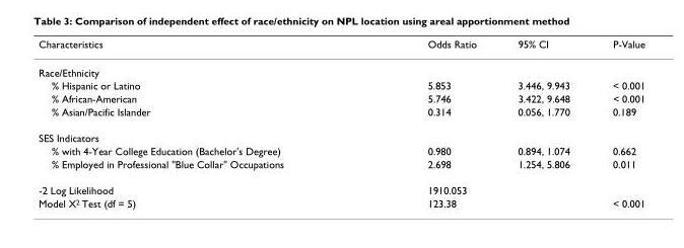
<table><thead><tr><td>Characteristics</td><td>Odds Ratio</td><td>95% CI</td><td>P-Value</td></tr></thead><tbody><tr><td colspan="4">Race/Ethnicity</td></tr><tr><td>% Hispanic or Latino</td><td>5.853</td><td>3.446, 9.943</td><td>&lt; 0.001</td></tr><tr><td>% African-American</td><td>5.746</td><td>3.422, 9.648</td><td>&lt; 0.001</td></tr><tr><td>% Asian/Pacific Islander</td><td>0.314</td><td>0.056, 1.770</td><td>0.189</td></tr><tr><td colspan="4">SES Indicators</td></tr><tr><td>% with 4-Year College Education (Bachelor&#x27;s Degree)</td><td>0.980</td><td>0.894, 1.074</td><td>0.662</td></tr><tr><td>% Employed in Professional &quot;Blue Collar&quot; Occupations</td><td>2.698</td><td>1.254, 5.806</td><td>0.011</td></tr><tr><td>-2 Log Likelihood</td><td>1910.053</td><td></td><td></td></tr><tr><td>Model X<sup>2</sup> Test (df = 5)</td><td>123.38</td><td></td><td>&lt; 0.001</td></tr></tbody></table>